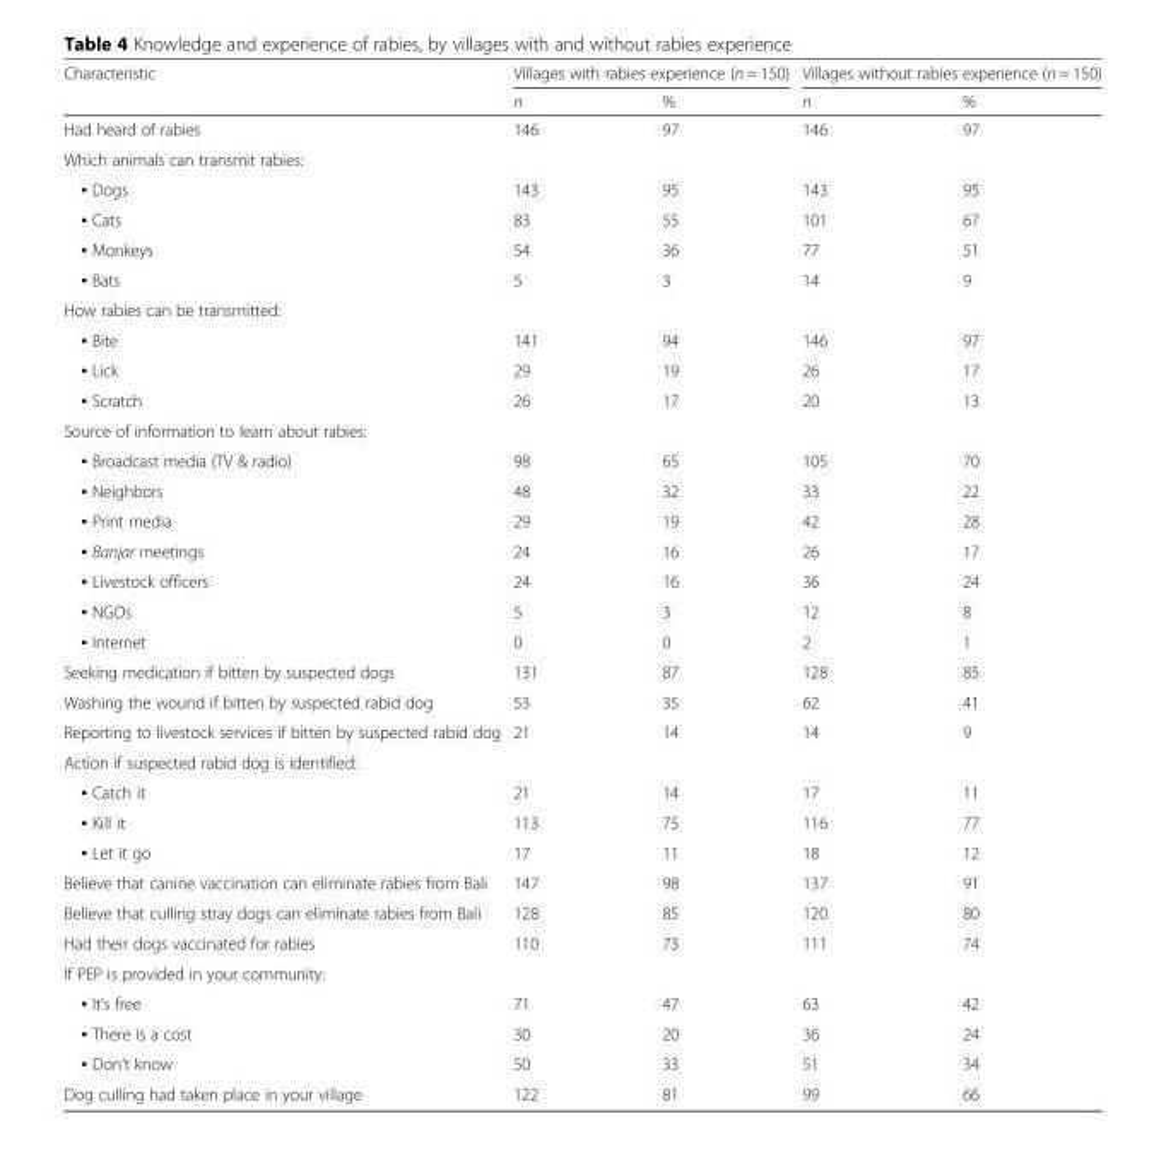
<table><thead><tr><td rowspan="2">Characteristic</td><td colspan="2">Villages with rabies experience (n = 150)</td><td colspan="2">Villages without rabies experience (n = 150)</td></tr><tr><td>n</td><td>%</td><td>n</td><td>%</td></tr></thead><tbody><tr><td>Had heard of rabies</td><td>146</td><td>97</td><td>146</td><td>97</td></tr><tr><td colspan="5">Which animals can transmit rabies:</td></tr><tr><td>▪ Dogs</td><td>143</td><td>95</td><td>143</td><td>95</td></tr><tr><td>▪ Cats</td><td>83</td><td>55</td><td>101</td><td>67</td></tr><tr><td>▪ Monkeys</td><td>54</td><td>36</td><td>77</td><td>51</td></tr><tr><td>▪ Bats</td><td>5</td><td>3</td><td>14</td><td>9</td></tr><tr><td colspan="5">How rabies can be transmitted:</td></tr><tr><td>▪ Bite</td><td>141</td><td>94</td><td>146</td><td>97</td></tr><tr><td>▪ Lick</td><td>29</td><td>19</td><td>26</td><td>17</td></tr><tr><td>▪ Scratch</td><td>26</td><td>17</td><td>20</td><td>13</td></tr><tr><td colspan="5">Source of information to learn about rabies:</td></tr><tr><td>▪ Broadcast media (TV &amp; radio)</td><td>98</td><td>65</td><td>105</td><td>70</td></tr><tr><td>▪ Neighbors</td><td>48</td><td>32</td><td>33</td><td>22</td></tr><tr><td>▪ Print media</td><td>29</td><td>19</td><td>42</td><td>28</td></tr><tr><td>▪ Banjar meetings</td><td>24</td><td>16</td><td>26</td><td>17</td></tr><tr><td>▪ Livestock officers</td><td>24</td><td>16</td><td>36</td><td>24</td></tr><tr><td>▪ NGOs</td><td>5</td><td>3</td><td>12</td><td>8</td></tr><tr><td>▪ Internet</td><td>0</td><td>0</td><td>2</td><td>1</td></tr><tr><td>Seeking medication if bitten by suspected dogs</td><td>131</td><td>87</td><td>128</td><td>85</td></tr><tr><td>Washing the wound if bitten by suspected rabid dog</td><td>53</td><td>35</td><td>62</td><td>41</td></tr><tr><td>Reporting to livestock services if bitten by suspected rabid dog</td><td>21</td><td>14</td><td>14</td><td>9</td></tr><tr><td colspan="5">Action if suspected rabid dog is identified:</td></tr><tr><td>▪ Catch it</td><td>21</td><td>14</td><td>17</td><td>11</td></tr><tr><td>▪ Kill it</td><td>113</td><td>75</td><td>116</td><td>77</td></tr><tr><td>▪ Let it go</td><td>17</td><td>11</td><td>18</td><td>12</td></tr><tr><td>Believe that canine vaccination can eliminate rabies from Bali</td><td>147</td><td>98</td><td>137</td><td>91</td></tr><tr><td>Believe that culling stray dogs can eliminate rabies from Bali</td><td>128</td><td>85</td><td>120</td><td>80</td></tr><tr><td>Had their dogs vaccinated for rabies</td><td>110</td><td>73</td><td>111</td><td>74</td></tr><tr><td colspan="5">If PEP is provided in your community:</td></tr><tr><td>▪ It’s free</td><td>71</td><td>47</td><td>63</td><td>42</td></tr><tr><td>▪ There is a cost</td><td>30</td><td>20</td><td>36</td><td>24</td></tr><tr><td>▪ Don’t know</td><td>50</td><td>33</td><td>51</td><td>34</td></tr><tr><td>Dog culling had taken place in your village</td><td>122</td><td>81</td><td>99</td><td>66</td></tr></tbody></table>